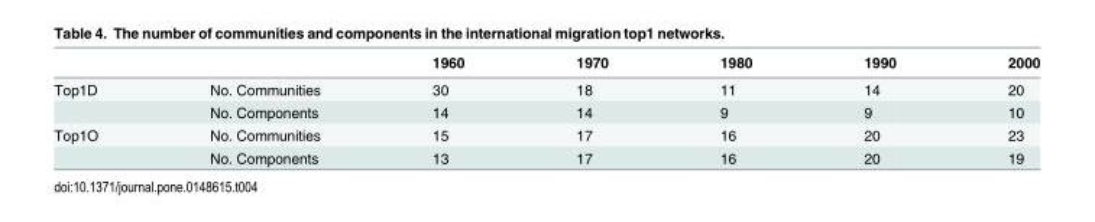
<table><thead><tr><td></td><td></td><td>1960</td><td>1970</td><td>1980</td><td>1990</td><td>2000</td></tr></thead><tbody><tr><td rowspan="2">Top1D</td><td>No. Communities</td><td>30</td><td>18</td><td>11</td><td>14</td><td>20</td></tr><tr><td>No. Components</td><td>14</td><td>14</td><td>9</td><td>9</td><td>10</td></tr><tr><td rowspan="2">Top1O</td><td>No. Communities</td><td>15</td><td>17</td><td>16</td><td>20</td><td>23</td></tr><tr><td>No. Components</td><td>13</td><td>17</td><td>16</td><td>20</td><td>19</td></tr></tbody></table>